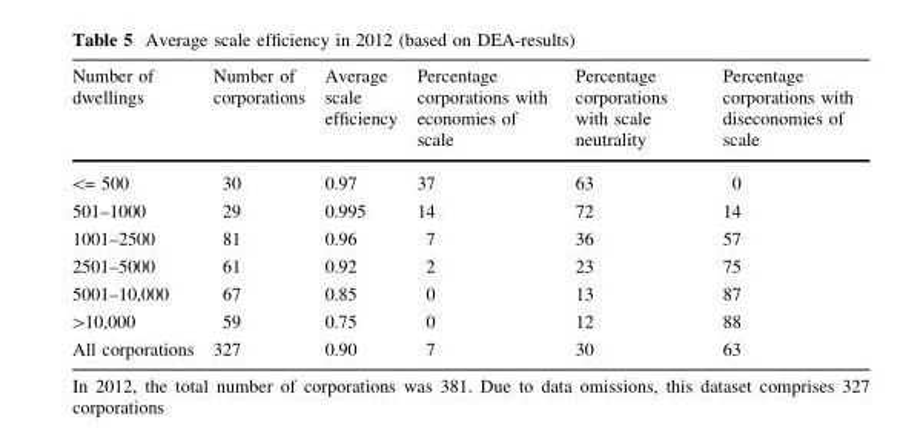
<table><thead><tr><td>Number of dwellings</td><td>Number of corporations</td><td>Average scale efficiency</td><td>Percentage corporations with economies of scale</td><td>Percentage corporations with scale neutrality</td><td>Percentage corporations with diseconomies of scale</td></tr></thead><tbody><tr><td>&lt;= 500</td><td>30</td><td>0.97</td><td>37</td><td>63</td><td>0</td></tr><tr><td>501–1000</td><td>29</td><td>0.995</td><td>14</td><td>72</td><td>14</td></tr><tr><td>1001–2500</td><td>81</td><td>0.96</td><td>7</td><td>36</td><td>57</td></tr><tr><td>2501–5000</td><td>61</td><td>0.92</td><td>2</td><td>23</td><td>75</td></tr><tr><td>5001–10,000</td><td>67</td><td>0.85</td><td>0</td><td>13</td><td>87</td></tr><tr><td>&gt;10,000</td><td>59</td><td>0.75</td><td>0</td><td>12</td><td>88</td></tr><tr><td>All corporations</td><td>327</td><td>0.90</td><td>7</td><td>30</td><td>63</td></tr></tbody></table>